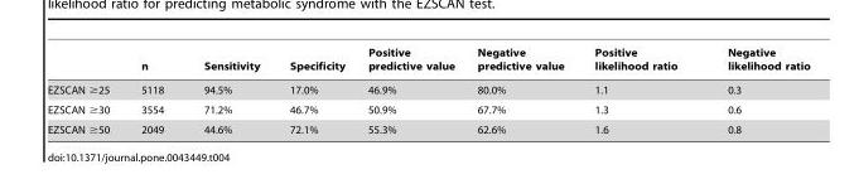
<table><thead><tr><td></td><td>n</td><td>Sensitivity</td><td>Specificity</td><td>Positive predictive value</td><td>Negative predictive value</td><td>Positive likelihood ratio</td><td>Negative likelihood ratio</td></tr></thead><tbody><tr><td>EZSCAN ≥25</td><td>5118</td><td>94.5%</td><td>17.0%</td><td>46.9%</td><td>80.0%</td><td>1.1</td><td>0.3</td></tr><tr><td>EZSCAN ≥30</td><td>3554</td><td>71.2%</td><td>46.7%</td><td>50.9%</td><td>67.7%</td><td>1.3</td><td>0.6</td></tr><tr><td>EZSCAN ≥50</td><td>2049</td><td>44.6%</td><td>72.1%</td><td>55.3%</td><td>62.6%</td><td>1.6</td><td>0.8</td></tr></tbody></table>